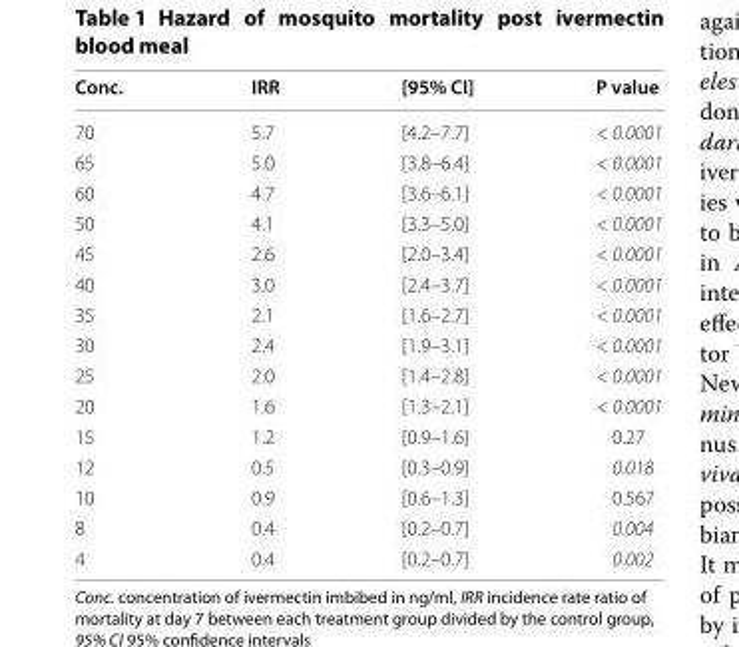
<table><thead><tr><td>Conc.</td><td>IRR</td><td>[95% CI]</td><td>P value</td></tr></thead><tbody><tr><td>70</td><td>5.7</td><td>[4.2–7.7]</td><td>&lt; 0.0001</td></tr><tr><td>65</td><td>5.0</td><td>[3.8–6.4]</td><td>&lt; 0.0001</td></tr><tr><td>60</td><td>4.7</td><td>[3.6–6.1]</td><td>&lt; 0.0001</td></tr><tr><td>50</td><td>4.1</td><td>[3.3–5.0]</td><td>&lt; 0.0001</td></tr><tr><td>45</td><td>2.6</td><td>[2.0–3.4]</td><td>&lt; 0.0001</td></tr><tr><td>40</td><td>3.0</td><td>[2.4–3.7]</td><td>&lt; 0.0001</td></tr><tr><td>35</td><td>2.1</td><td>[1.6–2.7]</td><td>&lt; 0.0001</td></tr><tr><td>30</td><td>2.4</td><td>[1.9–3.1]</td><td>&lt; 0.0001</td></tr><tr><td>25</td><td>2.0</td><td>[1.4–2.8]</td><td>&lt; 0.0001</td></tr><tr><td>20</td><td>1.6</td><td>[1.3–2.1]</td><td>&lt; 0.0001</td></tr><tr><td>15</td><td>1.2</td><td>[0.9–1.6]</td><td>0.27</td></tr><tr><td>12</td><td>0.5</td><td>[0.3–0.9]</td><td>0.018</td></tr><tr><td>10</td><td>0.9</td><td>[0.6–1.3]</td><td>0.567</td></tr><tr><td>8</td><td>0.4</td><td>[0.2–0.7]</td><td>0.004</td></tr><tr><td>4</td><td>0.4</td><td>[0.2–0.7]</td><td>0.002</td></tr></tbody></table>